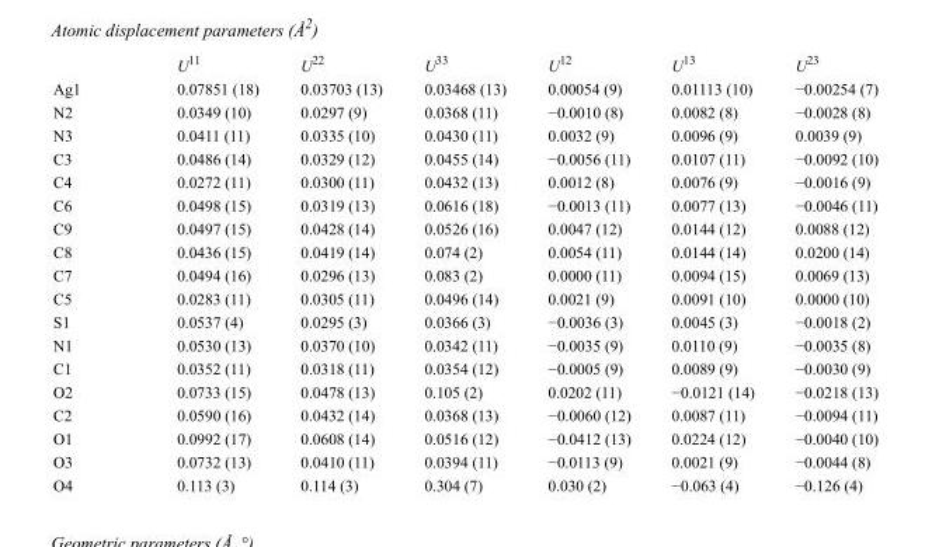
<table><thead><tr><td></td><td>U<sup>11</sup></td><td>U<sup>22</sup></td><td>U<sup>33</sup></td><td>U<sup>12</sup></td><td>U<sup>13</sup></td><td>U<sup>23</sup></td></tr></thead><tbody><tr><td>Ag1</td><td>0.07851 (18)</td><td>0.03703 (13)</td><td>0.03468 (13)</td><td>0.00054 (9)</td><td>0.01113 (10)</td><td>−0.00254 (7)</td></tr><tr><td>N2</td><td>0.0349 (10)</td><td>0.0297 (9)</td><td>0.0368 (11)</td><td>−0.0010 (8)</td><td>0.0082 (8)</td><td>−0.0028 (8)</td></tr><tr><td>N3</td><td>0.0411 (11)</td><td>0.0335 (10)</td><td>0.0430 (11)</td><td>0.0032 (9)</td><td>0.0096 (9)</td><td>0.0039 (9)</td></tr><tr><td>C3</td><td>0.0486 (14)</td><td>0.0329 (12)</td><td>0.0455 (14)</td><td>−0.0056 (11)</td><td>0.0107 (11)</td><td>−0.0092 (10)</td></tr><tr><td>C4</td><td>0.0272 (11)</td><td>0.0300 (11)</td><td>0.0432 (13)</td><td>0.0012 (8)</td><td>0.0076 (9)</td><td>−0.0016 (9)</td></tr><tr><td>C6</td><td>0.0498 (15)</td><td>0.0319 (13)</td><td>0.0616 (18)</td><td>−0.0013 (11)</td><td>0.0077 (13)</td><td>−0.0046 (11)</td></tr><tr><td>C9</td><td>0.0497 (15)</td><td>0.0428 (14)</td><td>0.0526 (16)</td><td>0.0047 (12)</td><td>0.0144 (12)</td><td>0.0088 (12)</td></tr><tr><td>C8</td><td>0.0436 (15)</td><td>0.0419 (14)</td><td>0.074 (2)</td><td>0.0054 (11)</td><td>0.0144 (14)</td><td>0.0200 (14)</td></tr><tr><td>C7</td><td>0.0494 (16)</td><td>0.0296 (13)</td><td>0.083 (2)</td><td>0.0000 (11)</td><td>0.0094 (15)</td><td>0.0069 (13)</td></tr><tr><td>C5</td><td>0.0283 (11)</td><td>0.0305 (11)</td><td>0.0496 (14)</td><td>0.0021 (9)</td><td>0.0091 (10)</td><td>0.0000 (10)</td></tr><tr><td>S1</td><td>0.0537 (4)</td><td>0.0295 (3)</td><td>0.0366 (3)</td><td>−0.0036 (3)</td><td>0.0045 (3)</td><td>−0.0018 (2)</td></tr><tr><td>N1</td><td>0.0530 (13)</td><td>0.0370 (10)</td><td>0.0342 (11)</td><td>−0.0035 (9)</td><td>0.0110 (9)</td><td>−0.0035 (8)</td></tr><tr><td>C1</td><td>0.0352 (11)</td><td>0.0318 (11)</td><td>0.0354 (12)</td><td>−0.0005 (9)</td><td>0.0089 (9)</td><td>−0.0030 (9)</td></tr><tr><td>O2</td><td>0.0733 (15)</td><td>0.0478 (13)</td><td>0.105 (2)</td><td>0.0202 (11)</td><td>−0.0121 (14)</td><td>−0.0218 (13)</td></tr><tr><td>C2</td><td>0.0590 (16)</td><td>0.0432 (14)</td><td>0.0368 (13)</td><td>−0.0060 (12)</td><td>0.0087 (11)</td><td>−0.0094 (11)</td></tr><tr><td>O1</td><td>0.0992 (17)</td><td>0.0608 (14)</td><td>0.0516 (12)</td><td>−0.0412 (13)</td><td>0.0224 (12)</td><td>−0.0040 (10)</td></tr><tr><td>O3</td><td>0.0732 (13)</td><td>0.0410 (11)</td><td>0.0394 (11)</td><td>−0.0113 (9)</td><td>0.0021 (9)</td><td>−0.0044 (8)</td></tr><tr><td>O4</td><td>0.113 (3)</td><td>0.114 (3)</td><td>0.304 (7)</td><td>0.030 (2)</td><td>−0.063 (4)</td><td>−0.126 (4)</td></tr></tbody></table>